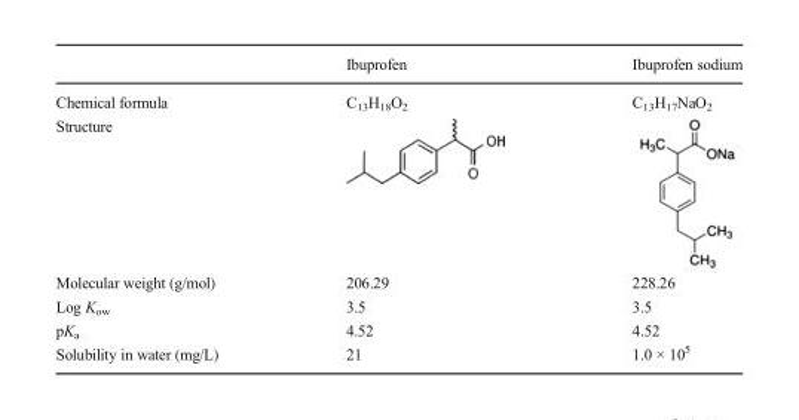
<table><thead><tr><td></td><td>Ibuprofen</td><td>Ibuprofen sodium</td></tr></thead><tbody><tr><td>Chemical formula</td><td>C<sub>13</sub>H<sub>18</sub>O<sub>2</sub></td><td>C<sub>13</sub>H<sub>17</sub>NaO<sub>2</sub></td></tr><tr><td colspan="3">Structure</td></tr><tr><td>Molecular weight (g/mol)</td><td>206.29</td><td>228.26</td></tr><tr><td>Log K<sub>ow</sub></td><td>3.5</td><td>3.5</td></tr><tr><td>pK<sub>a</sub></td><td>4.52</td><td>4.52</td></tr><tr><td>Solubility in water (mg/L)</td><td>21</td><td>1.0 × 10<sup>5</sup></td></tr></tbody></table>